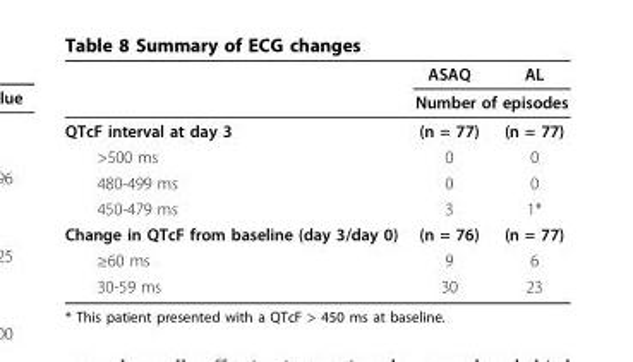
<table><thead><tr><td rowspan="2"></td><td>ASAQ</td><td>AL</td></tr><tr><td colspan="2">Number of episodes</td></tr></thead><tbody><tr><td>QTcF interval at day 3</td><td>(n = 77)</td><td>(n = 77)</td></tr><tr><td>&gt;500 ms</td><td>0</td><td>0</td></tr><tr><td>480-499 ms</td><td>0</td><td>0</td></tr><tr><td>450-479 ms</td><td>3</td><td>1*</td></tr><tr><td>Change in QTcF from baseline (day 3/day 0)</td><td>(n = 76)</td><td>(n = 77)</td></tr><tr><td>≥60 ms</td><td>9</td><td>6</td></tr><tr><td>30-59 ms</td><td>30</td><td>23</td></tr></tbody></table>